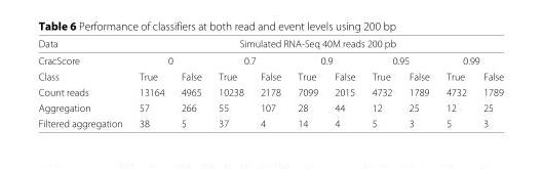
<table><thead><tr><td rowspan="3">Data CracScore Class</td><td colspan="10">Simulated RNA-Seq 40M reads 200 pb</td></tr><tr><td colspan="2">0</td><td colspan="2">0.7</td><td colspan="2">0.9</td><td colspan="2">0.95</td><td colspan="2">0.99</td></tr><tr><td>True</td><td>False</td><td>True</td><td>False</td><td>True</td><td>False</td><td>True</td><td>False</td><td>True</td><td>False</td></tr></thead><tbody><tr><td>Count reads</td><td>13164</td><td>4965</td><td>10238</td><td>2178</td><td>7099</td><td>2015</td><td>4732</td><td>1789</td><td>4732</td><td>1789</td></tr><tr><td>Aggregation</td><td>57</td><td>266</td><td>55</td><td>107</td><td>28</td><td>44</td><td>12</td><td>25</td><td>12</td><td>25</td></tr><tr><td>Filtered aggregation</td><td>38</td><td>5</td><td>37</td><td>4</td><td>14</td><td>4</td><td>5</td><td>3</td><td>5</td><td>3</td></tr></tbody></table>